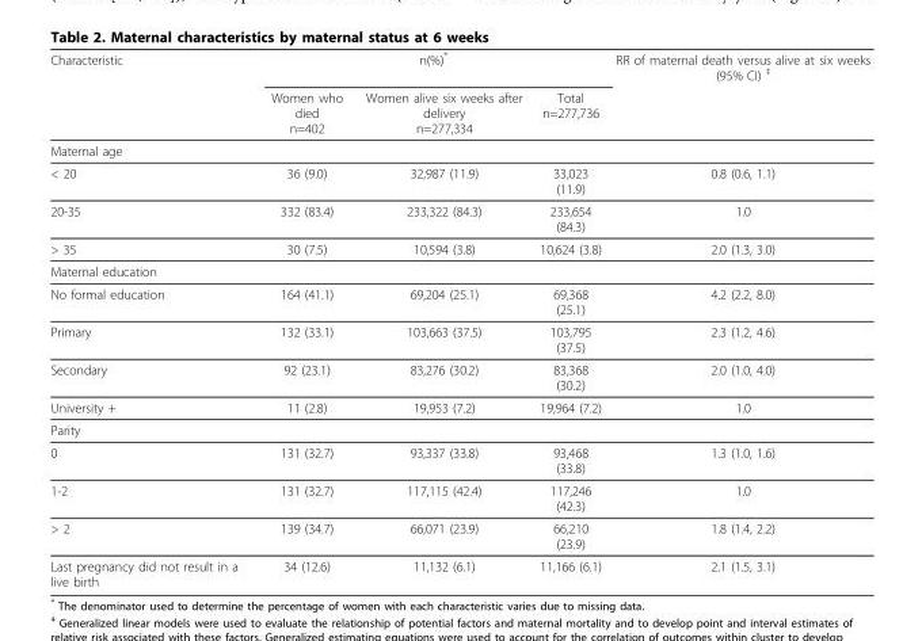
<table><thead><tr><td rowspan="2">Characteristic</td><td colspan="3">n(%)*</td><td rowspan="2">RR of maternal death versus alive at six weeks (95% CI) <sup>‡</sup></td></tr><tr><td>Women who died n=402</td><td>Women alive six weeks after delivery n=277,334</td><td>Total n=277,736</td></tr></thead><tbody><tr><td colspan="5">Maternal age</td></tr><tr><td>&lt; 20</td><td>36 (9.0)</td><td>32,987 (11.9)</td><td>33,023 (11.9)</td><td>0.8 (0.6, 1.1)</td></tr><tr><td>20-35</td><td>332 (83.4)</td><td>233,322 (84.3)</td><td>233,654 (84.3)</td><td>1.0</td></tr><tr><td>&gt; 35</td><td>30 (7.5)</td><td>10,594 (3.8)</td><td>10,624 (3.8)</td><td>2.0 (1.3, 3.0)</td></tr><tr><td colspan="5">Maternal education</td></tr><tr><td>No formal education</td><td>164 (41.1)</td><td>69,204 (25.1)</td><td>69,368 (25.1)</td><td>4.2 (2.2, 8.0)</td></tr><tr><td>Primary</td><td>132 (33.1)</td><td>103,663 (37.5)</td><td>103,795 (37.5)</td><td>2.3 (1.2, 4.6)</td></tr><tr><td>Secondary</td><td>92 (23.1)</td><td>83,276 (30.2)</td><td>83,368 (30.2)</td><td>2.0 (1.0, 4.0)</td></tr><tr><td>University +</td><td>11 (2.8)</td><td>19,953 (7.2)</td><td>19,964 (7.2)</td><td>1.0</td></tr><tr><td colspan="5">Parity</td></tr><tr><td>0</td><td>131 (32.7)</td><td>93,337 (33.8)</td><td>93,468 (33.8)</td><td>1.3 (1.0, 1.6)</td></tr><tr><td>1-2</td><td>131 (32.7)</td><td>117,115 (42.4)</td><td>117,246 (42.3)</td><td>1.0</td></tr><tr><td>&gt; 2</td><td>139 (34.7)</td><td>66,071 (23.9)</td><td>66,210 (23.9)</td><td>1.8 (1.4, 2.2)</td></tr><tr><td>Last pregnancy did not result in a live birth</td><td>34 (12.6)</td><td>11,132 (6.1)</td><td>11,166 (6.1)</td><td>2.1 (1.5, 3.1)</td></tr></tbody></table>